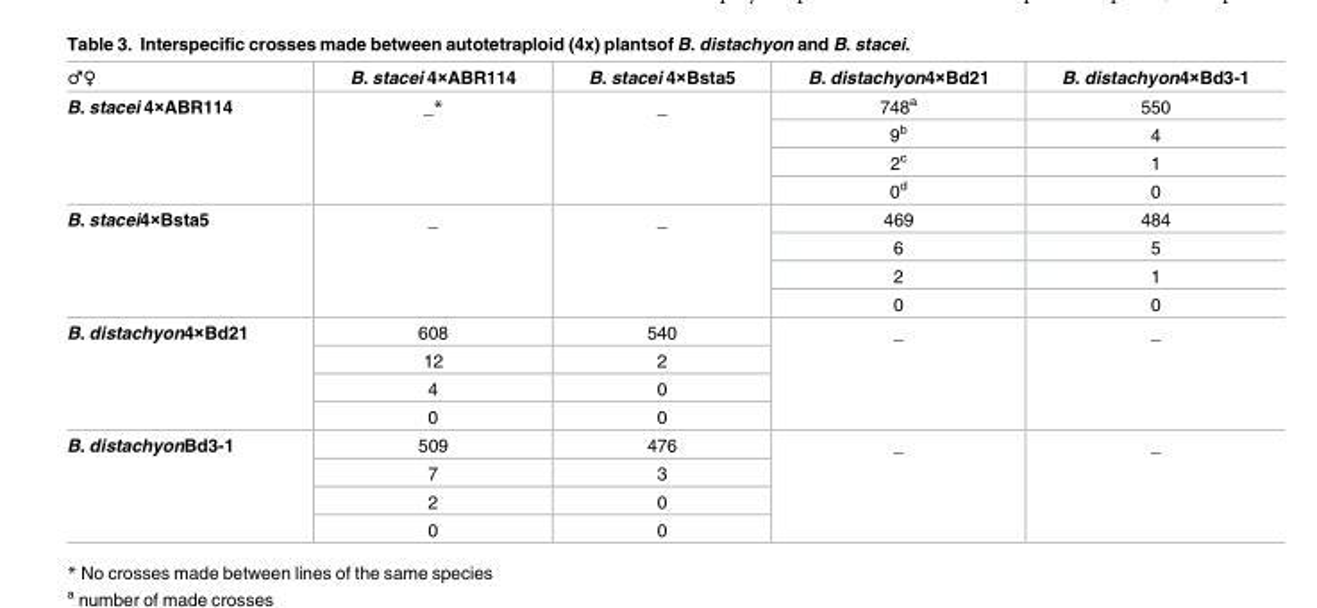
<table><thead><tr><td>♂♀</td><td>B. stacei 4×ABR114</td><td>B. stacei 4×Bsta5</td><td>B. distachyon4×Bd21</td><td>B. distachyon4×Bd3-1</td></tr></thead><tbody><tr><td rowspan="4">B. stacei 4×ABR114</td><td rowspan="4">_*</td><td rowspan="4">_</td><td>748<sup>a</sup></td><td>550</td></tr><tr><td>9<sup>b</sup></td><td>4</td></tr><tr><td>2<sup>c</sup></td><td>1</td></tr><tr><td>0<sup>d</sup></td><td>0</td></tr><tr><td rowspan="4">B. stacei4×Bsta5</td><td rowspan="4">_</td><td rowspan="4">_</td><td>469</td><td>484</td></tr><tr><td>6</td><td>5</td></tr><tr><td>2</td><td>1</td></tr><tr><td>0</td><td>0</td></tr><tr><td rowspan="4">B. distachyon4×Bd21</td><td>608</td><td>540</td><td rowspan="4">_</td><td rowspan="4">_</td></tr><tr><td>12</td><td>2</td></tr><tr><td>4</td><td>0</td></tr><tr><td>0</td><td>0</td></tr><tr><td rowspan="4">B. distachyonBd3-1</td><td>509</td><td>476</td><td rowspan="4">_</td><td rowspan="4">_</td></tr><tr><td>7</td><td>3</td></tr><tr><td>2</td><td>0</td></tr><tr><td>0</td><td>0</td></tr></tbody></table>